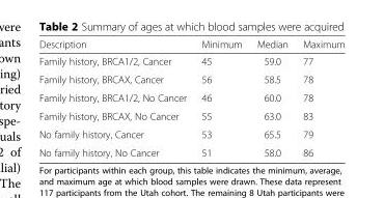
<table><thead><tr><td>Description</td><td>Minimum</td><td>Median</td><td>Maximum</td></tr></thead><tbody><tr><td>Family history, BRCA1/2, Cancer</td><td>45</td><td>59.0</td><td>77</td></tr><tr><td>Family history, BRCAX, Cancer</td><td>56</td><td>58.5</td><td>78</td></tr><tr><td>Family history, BRCA1/2, No Cancer</td><td>46</td><td>60.0</td><td>78</td></tr><tr><td>Family history, BRCAX, No Cancer</td><td>55</td><td>63.0</td><td>83</td></tr><tr><td>No family history, Cancer</td><td>53</td><td>65.5</td><td>79</td></tr><tr><td>No family history, No Cancer</td><td>51</td><td>58.0</td><td>86</td></tr></tbody></table>